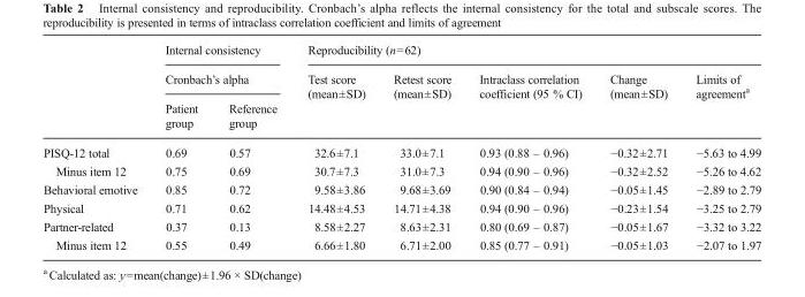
<table><thead><tr><td rowspan="3"></td><td rowspan="2" colspan="2">Internal consistency Cronbach’s alpha</td><td colspan="5">Reproducibility (n=62)</td></tr><tr><td rowspan="2">Test score (mean±SD)</td><td rowspan="2">Retest score (mean±SD)</td><td rowspan="2">Intraclass correlation coefficient (95 % CI)</td><td rowspan="2">Change (mean±SD)</td><td rowspan="2">Limits of agreement<sup>a</sup></td></tr><tr><td>Patient group</td><td>Reference group</td></tr></thead><tbody><tr><td>PISQ-12 total</td><td>0.69</td><td>0.57</td><td>32.6±7.1</td><td>33.0±7.1</td><td>0.93 (0.88 – 0.96)</td><td>−0.32±2.71</td><td>−5.63 to 4.99</td></tr><tr><td>Minus item 12</td><td>0.75</td><td>0.69</td><td>30.7±7.3</td><td>31.0±7.3</td><td>0.94 (0.90 – 0.96)</td><td>−0.32±2.52</td><td>−5.26 to 4.62</td></tr><tr><td>Behavioral emotive</td><td>0.85</td><td>0.72</td><td>9.58±3.86</td><td>9.68±3.69</td><td>0.90 (0.84 – 0.94)</td><td>−0.05±1.45</td><td>−2.89 to 2.79</td></tr><tr><td>Physical</td><td>0.71</td><td>0.62</td><td>14.48±4.53</td><td>14.71±4.38</td><td>0.94 (0.90 – 0.96)</td><td>−0.23±1.54</td><td>−3.25 to 2.79</td></tr><tr><td>Partner-related</td><td>0.37</td><td>0.13</td><td>8.58±2.27</td><td>8.63±2.31</td><td>0.80 (0.69 – 0.87)</td><td>−0.05±1.67</td><td>−3.32 to 3.22</td></tr><tr><td>Minus item 12</td><td>0.55</td><td>0.49</td><td>6.66±1.80</td><td>6.71±2.00</td><td>0.85 (0.77 – 0.91)</td><td>−0.05±1.03</td><td>−2.07 to 1.97</td></tr></tbody></table>